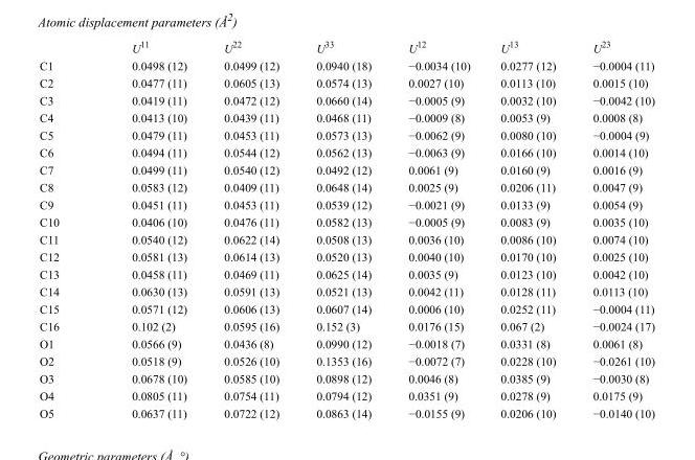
<table><thead><tr><td></td><td>U<sup>11</sup></td><td>U<sup>22</sup></td><td>U<sup>33</sup></td><td>U<sup>12</sup></td><td>U<sup>13</sup></td><td>U<sup>23</sup></td></tr></thead><tbody><tr><td>C1</td><td>0.0498 (12)</td><td>0.0499 (12)</td><td>0.0940 (18)</td><td>−0.0034 (10)</td><td>0.0277 (12)</td><td>−0.0004 (11)</td></tr><tr><td>C2</td><td>0.0477 (11)</td><td>0.0605 (13)</td><td>0.0574 (13)</td><td>0.0027 (10)</td><td>0.0113 (10)</td><td>0.0015 (10)</td></tr><tr><td>C3</td><td>0.0419 (11)</td><td>0.0472 (12)</td><td>0.0660 (14)</td><td>−0.0005 (9)</td><td>0.0032 (10)</td><td>−0.0042 (10)</td></tr><tr><td>C4</td><td>0.0413 (10)</td><td>0.0439 (11)</td><td>0.0468 (11)</td><td>−0.0009 (8)</td><td>0.0053 (9)</td><td>0.0008 (8)</td></tr><tr><td>C5</td><td>0.0479 (11)</td><td>0.0453 (11)</td><td>0.0573 (13)</td><td>−0.0062 (9)</td><td>0.0080 (10)</td><td>−0.0004 (9)</td></tr><tr><td>C6</td><td>0.0494 (11)</td><td>0.0544 (12)</td><td>0.0562 (13)</td><td>−0.0063 (9)</td><td>0.0166 (10)</td><td>0.0014 (10)</td></tr><tr><td>C7</td><td>0.0499 (11)</td><td>0.0540 (12)</td><td>0.0492 (12)</td><td>0.0061 (9)</td><td>0.0160 (9)</td><td>0.0016 (9)</td></tr><tr><td>C8</td><td>0.0583 (12)</td><td>0.0409 (11)</td><td>0.0648 (14)</td><td>0.0025 (9)</td><td>0.0206 (11)</td><td>0.0047 (9)</td></tr><tr><td>C9</td><td>0.0451 (11)</td><td>0.0453 (11)</td><td>0.0539 (12)</td><td>−0.0021 (9)</td><td>0.0133 (9)</td><td>0.0054 (9)</td></tr><tr><td>C10</td><td>0.0406 (10)</td><td>0.0476 (11)</td><td>0.0582 (13)</td><td>−0.0005 (9)</td><td>0.0083 (9)</td><td>0.0035 (10)</td></tr><tr><td>C11</td><td>0.0540 (12)</td><td>0.0622 (14)</td><td>0.0508 (13)</td><td>0.0036 (10)</td><td>0.0086 (10)</td><td>0.0074 (10)</td></tr><tr><td>C12</td><td>0.0581 (13)</td><td>0.0614 (13)</td><td>0.0520 (13)</td><td>0.0040 (10)</td><td>0.0170 (10)</td><td>0.0025 (10)</td></tr><tr><td>C13</td><td>0.0458 (11)</td><td>0.0469 (11)</td><td>0.0625 (14)</td><td>0.0035 (9)</td><td>0.0123 (10)</td><td>0.0042 (10)</td></tr><tr><td>C14</td><td>0.0630 (13)</td><td>0.0591 (13)</td><td>0.0521 (13)</td><td>0.0042 (11)</td><td>0.0128 (11)</td><td>0.0113 (10)</td></tr><tr><td>C15</td><td>0.0571 (12)</td><td>0.0606 (13)</td><td>0.0607 (14)</td><td>0.0006 (10)</td><td>0.0252 (11)</td><td>−0.0004 (11)</td></tr><tr><td>C16</td><td>0.102 (2)</td><td>0.0595 (16)</td><td>0.152 (3)</td><td>0.0176 (15)</td><td>0.067 (2)</td><td>−0.0024 (17)</td></tr><tr><td>O1</td><td>0.0566 (9)</td><td>0.0436 (8)</td><td>0.0990 (12)</td><td>−0.0018 (7)</td><td>0.0331 (8)</td><td>0.0061 (8)</td></tr><tr><td>O2</td><td>0.0518 (9)</td><td>0.0526 (10)</td><td>0.1353 (16)</td><td>−0.0072 (7)</td><td>0.0228 (10)</td><td>−0.0261 (10)</td></tr><tr><td>O3</td><td>0.0678 (10)</td><td>0.0585 (10)</td><td>0.0898 (12)</td><td>0.0046 (8)</td><td>0.0385 (9)</td><td>−0.0030 (8)</td></tr><tr><td>O4</td><td>0.0805 (11)</td><td>0.0754 (11)</td><td>0.0794 (12)</td><td>0.0351 (9)</td><td>0.0278 (9)</td><td>0.0175 (9)</td></tr><tr><td>O5</td><td>0.0637 (11)</td><td>0.0722 (12)</td><td>0.0863 (14)</td><td>−0.0155 (9)</td><td>0.0206 (10)</td><td>−0.0140 (10)</td></tr></tbody></table>